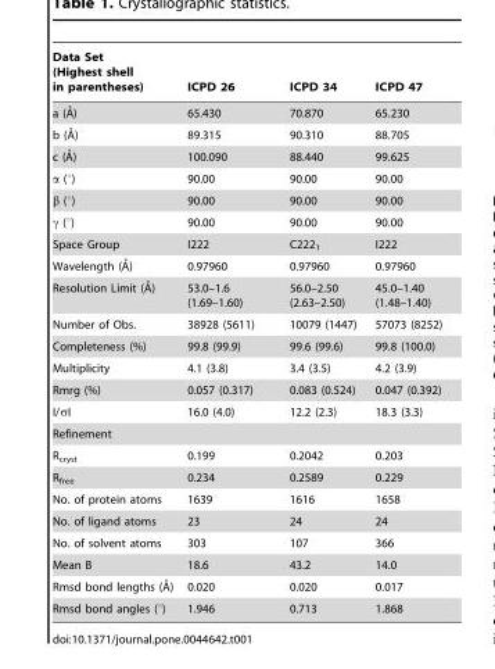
<table><thead><tr><td>Data Set (Highest shell in parentheses)</td><td>ICPD 26</td><td>ICPD 34</td><td>ICPD 47</td></tr></thead><tbody><tr><td>a (A˚)</td><td>65.430</td><td>70.870</td><td>65.230</td></tr><tr><td>b (A˚)</td><td>89.315</td><td>90.310</td><td>88.705</td></tr><tr><td>c (A˚)</td><td>100.090</td><td>88.440</td><td>99.625</td></tr><tr><td>α (°)</td><td>90.00</td><td>90.00</td><td>90.00</td></tr><tr><td>β (°)</td><td>90.00</td><td>90.00</td><td>90.00</td></tr><tr><td>γ (°)</td><td>90.00</td><td>90.00</td><td>90.00</td></tr><tr><td>Space Group</td><td>I222</td><td>C222<sub>1</sub></td><td>I222</td></tr><tr><td>Wavelength (A˚)</td><td>0.97960</td><td>0.97960</td><td>0.97960</td></tr><tr><td>Resolution Limit (A˚)</td><td>53.0–1.6 (1.69–1.60)</td><td>56.0–2.50 (2.63–2.50)</td><td>45.0–1.40 (1.48–1.40)</td></tr><tr><td>Number of Obs.</td><td>38928 (5611)</td><td>10079 (1447)</td><td>57073 (8252)</td></tr><tr><td>Completeness (%)</td><td>99.8 (99.9)</td><td>99.6 (99.6)</td><td>99.8 (100.0)</td></tr><tr><td>Multiplicity</td><td>4.1 (3.8)</td><td>3.4 (3.5)</td><td>4.2 (3.9)</td></tr><tr><td>Rmrg (%)</td><td>0.057 (0.317)</td><td>0.083 (0.524)</td><td>0.047 (0.392)</td></tr><tr><td>I/σI</td><td>16.0 (4.0)</td><td>12.2 (2.3)</td><td>18.3 (3.3)</td></tr><tr><td colspan="4">Refinement</td></tr><tr><td>R<sub>cryst</sub></td><td>0.199</td><td>0.2042</td><td>0.203</td></tr><tr><td>R<sub>free</sub></td><td>0.234</td><td>0.2589</td><td>0.229</td></tr><tr><td>No. of protein atoms</td><td>1639</td><td>1616</td><td>1658</td></tr><tr><td>No. of ligand atoms</td><td>23</td><td>24</td><td>24</td></tr><tr><td>No. of solvent atoms</td><td>303</td><td>107</td><td>366</td></tr><tr><td>Mean B</td><td>18.6</td><td>43.2</td><td>14.0</td></tr><tr><td>Rmsd bond lengths (A˚)</td><td>0.020</td><td>0.020</td><td>0.017</td></tr><tr><td>Rmsd bond angles (°)</td><td>1.946</td><td>0.713</td><td>1.868</td></tr></tbody></table>